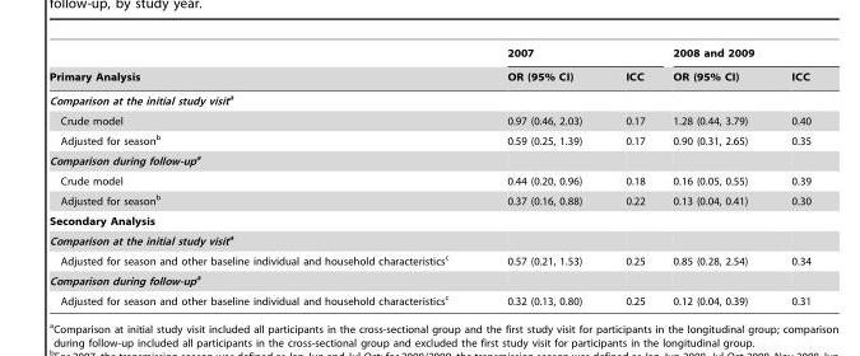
<table><thead><tr><td rowspan="2">Primary Analysis</td><td colspan="2">2007</td><td colspan="2">2008 and 2009</td></tr><tr><td>OR (95% CI)</td><td>ICC</td><td>OR (95% CI)</td><td>ICC</td></tr></thead><tbody><tr><td colspan="5">Comparison at the initial study visita</td></tr><tr><td>Crude model</td><td>0.97 (0.46, 2.03)</td><td>0.17</td><td>1.28 (0.44, 3.79)</td><td>0.40</td></tr><tr><td>Adjusted for season<sup>b</sup></td><td>0.59 (0.25, 1.39)</td><td>0.17</td><td>0.90 (0.31, 2.65)</td><td>0.35</td></tr><tr><td colspan="5">Comparison during follow-upa</td></tr><tr><td>Crude model</td><td>0.44 (0.20, 0.96)</td><td>0.18</td><td>0.16 (0.05, 0.55)</td><td>0.39</td></tr><tr><td>Adjusted for season<sup>b</sup></td><td>0.37 (0.16, 0.88)</td><td>0.22</td><td>0.13 (0.04, 0.41)</td><td>0.30</td></tr><tr><td colspan="5">Secondary Analysis</td></tr><tr><td colspan="5">Comparison at the initial study visita</td></tr><tr><td>Adjusted for season and other baseline individual and household characteristics<sup>c</sup></td><td>0.57 (0.21, 1.53)</td><td>0.25</td><td>0.85 (0.28, 2.54)</td><td>0.34</td></tr><tr><td colspan="5">Comparison during follow-upa</td></tr><tr><td>Adjusted for season and other baseline individual and household characteristics<sup>c</sup></td><td>0.32 (0.13, 0.80)</td><td>0.25</td><td>0.12 (0.04, 0.39)</td><td>0.31</td></tr></tbody></table>